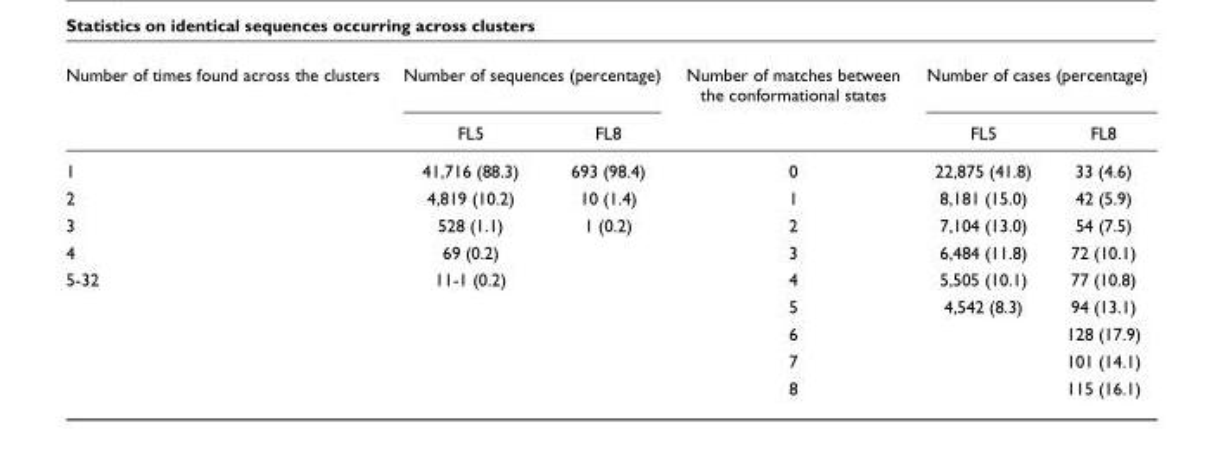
<table><thead><tr><td rowspan="2">Number of times found across the clusters</td><td colspan="2">Number of sequences (percentage)</td><td rowspan="2">Number of matches between the conformational states</td><td colspan="2">Number of cases (percentage)</td></tr><tr><td>FL5</td><td>FL8</td><td>FL5</td><td>FL8</td></tr></thead><tbody><tr><td>1</td><td>41,716 (88.3)</td><td>693 (98.4)</td><td>0</td><td>22,875 (41.8)</td><td>33 (4.6)</td></tr><tr><td>2</td><td>4,819 (10.2)</td><td>10 (1.4)</td><td>1</td><td>8,181 (15.0)</td><td>42 (5.9)</td></tr><tr><td>3</td><td>528 (1.1)</td><td>1 (0.2)</td><td>2</td><td>7,104 (13.0)</td><td>54 (7.5)</td></tr><tr><td>4</td><td>69 (0.2)</td><td></td><td>3</td><td>6,484 (11.8)</td><td>72 (10.1)</td></tr><tr><td rowspan="5">5-32</td><td>11-1 (0.2)</td><td></td><td>4</td><td>5,505 (10.1)</td><td>77 (10.8)</td></tr><tr><td></td><td></td><td>5</td><td>4,542 (8.3)</td><td>94 (13.1)</td></tr><tr><td></td><td></td><td>6</td><td></td><td>128 (17.9)</td></tr><tr><td></td><td></td><td>7</td><td></td><td>101 (14.1)</td></tr><tr><td></td><td></td><td>8</td><td></td><td>115 (16.1)</td></tr></tbody></table>